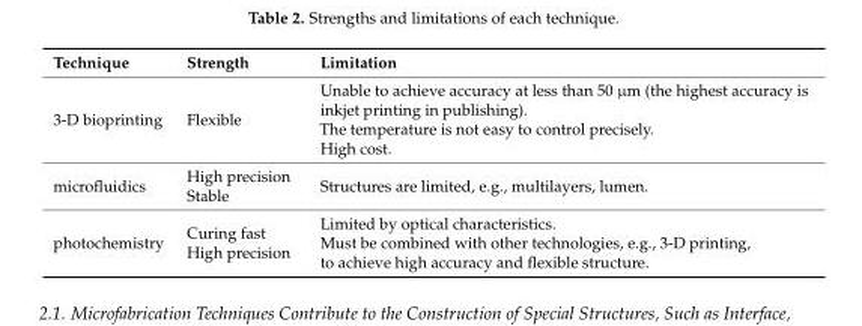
<table><thead><tr><td>Technique</td><td>Strength</td><td>Limitation</td></tr></thead><tbody><tr><td>3-D bioprinting</td><td>Flexible</td><td>Unable to achieve accuracy at less than 50 µm (the highest accuracy is inkjet printing in publishing). The temperature is not easy to control precisely. High cost.</td></tr><tr><td>microfluidics</td><td>High precision Stable</td><td>Structures are limited, e.g., multilayers, lumen.</td></tr><tr><td>photochemistry</td><td>Curing fast High precision</td><td>Limited by optical characteristics. Must be combined with other technologies, e.g., 3-D printing, to achieve high accuracy and flexible structure.</td></tr></tbody></table>